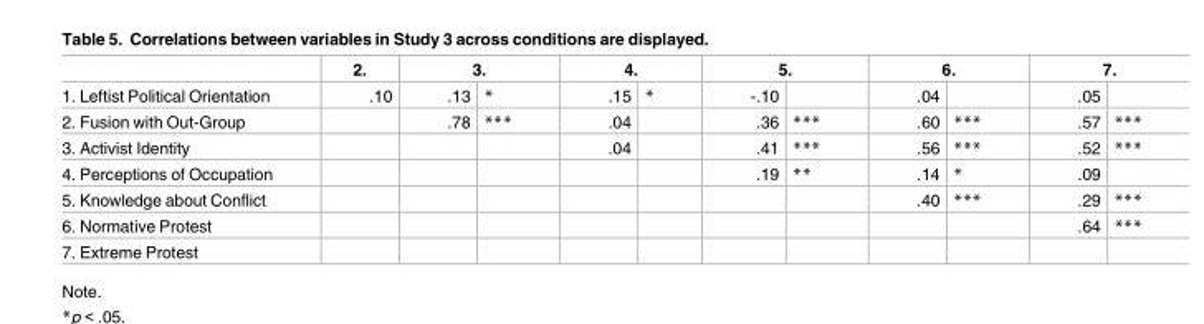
<table><thead><tr><td rowspan="2">1. Leftist Political Orientation</td><td rowspan="2">2. .10</td><td colspan="2">3.</td><td colspan="2">4.</td><td colspan="2">5.</td><td colspan="2">6.</td><td colspan="2">7.</td></tr><tr><td>.13</td><td>*</td><td>.15</td><td>*</td><td>-.10</td><td></td><td>.04</td><td></td><td>.05</td><td></td></tr></thead><tbody><tr><td>2. Fusion with Out-Group</td><td></td><td>.78</td><td>***</td><td>.04</td><td></td><td>.36</td><td>***</td><td>.60</td><td>***</td><td>.57</td><td>***</td></tr><tr><td>3. Activist Identity</td><td></td><td></td><td></td><td>.04</td><td></td><td>.41</td><td>***</td><td>.56</td><td>***</td><td>.52</td><td>***</td></tr><tr><td>4. Perceptions of Occupation</td><td></td><td></td><td></td><td></td><td></td><td>.19</td><td>**</td><td>.14</td><td>*</td><td>.09</td><td></td></tr><tr><td>5. Knowledge about Conflict</td><td></td><td></td><td></td><td></td><td></td><td></td><td></td><td>.40</td><td>***</td><td>.29</td><td>***</td></tr><tr><td>6. Normative Protest</td><td></td><td></td><td></td><td></td><td></td><td></td><td></td><td></td><td></td><td>.64</td><td>***</td></tr><tr><td>7. Extreme Protest</td><td></td><td></td><td></td><td></td><td></td><td></td><td></td><td></td><td></td><td></td><td></td></tr></tbody></table>